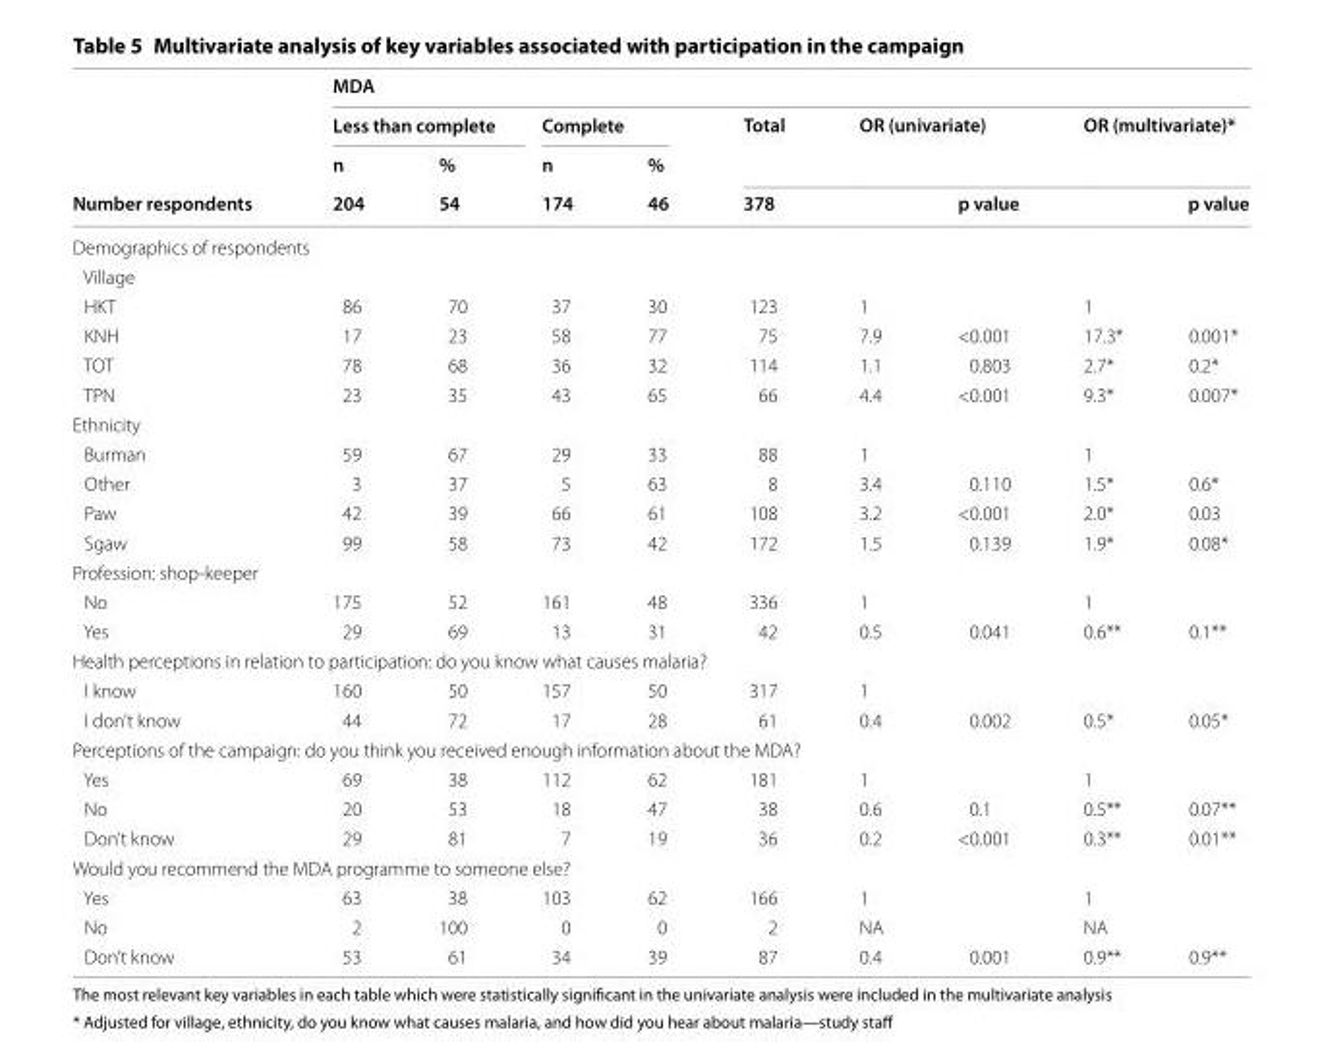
<table><thead><tr><td rowspan="4">Number respondents</td><td colspan="9">MDA</td></tr><tr><td colspan="2">Less than complete</td><td colspan="2">Complete</td><td rowspan="3">Total 378</td><td rowspan="2" colspan="2">OR (univariate)</td><td rowspan="2" colspan="2">OR (multivariate)*</td></tr><tr><td rowspan="2">n 204</td><td rowspan="2">% 54</td><td rowspan="2">n 174</td><td rowspan="2">% 46</td></tr><tr><td></td><td>p value</td><td></td><td>p value</td></tr></thead><tbody><tr><td colspan="10">Demographics of respondents</td></tr><tr><td colspan="10">Village</td></tr><tr><td>HKT</td><td>86</td><td>70</td><td>37</td><td>30</td><td>123</td><td>1</td><td></td><td>1</td><td></td></tr><tr><td>KNH</td><td>17</td><td>23</td><td>58</td><td>77</td><td>75</td><td>7.9</td><td>&lt;0.001</td><td>17.3*</td><td>0.001*</td></tr><tr><td>TOT</td><td>78</td><td>68</td><td>36</td><td>32</td><td>114</td><td>1.1</td><td>0.803</td><td>2.7*</td><td>0.2*</td></tr><tr><td>TPN</td><td>23</td><td>35</td><td>43</td><td>65</td><td>66</td><td>4.4</td><td>&lt;0.001</td><td>9.3*</td><td>0.007*</td></tr><tr><td colspan="10">Ethnicity</td></tr><tr><td>Burman</td><td>59</td><td>67</td><td>29</td><td>33</td><td>88</td><td>1</td><td></td><td>1</td><td></td></tr><tr><td>Other</td><td>3</td><td>37</td><td>5</td><td>63</td><td>8</td><td>3.4</td><td>0.110</td><td>1.5*</td><td>0.6*</td></tr><tr><td>Paw</td><td>42</td><td>39</td><td>66</td><td>61</td><td>108</td><td>3.2</td><td>&lt;0.001</td><td>2.0*</td><td>0.03</td></tr><tr><td>Sgaw</td><td>99</td><td>58</td><td>73</td><td>42</td><td>172</td><td>1.5</td><td>0.139</td><td>1.9*</td><td>0.08*</td></tr><tr><td colspan="10">Profession: shop-keeper</td></tr><tr><td>No</td><td>175</td><td>52</td><td>161</td><td>48</td><td>336</td><td>1</td><td></td><td>1</td><td></td></tr><tr><td>Yes</td><td>29</td><td>69</td><td>13</td><td>31</td><td>42</td><td>0.5</td><td>0.041</td><td>0.6**</td><td>0.1**</td></tr><tr><td colspan="10">Health perceptions in relation to participation: do you know what causes malaria?</td></tr><tr><td>I know</td><td>160</td><td>50</td><td>157</td><td>50</td><td>317</td><td>1</td><td></td><td></td><td></td></tr><tr><td>I don’t know</td><td>44</td><td>72</td><td>17</td><td>28</td><td>61</td><td>0.4</td><td>0.002</td><td>0.5*</td><td>0.05*</td></tr><tr><td colspan="10">Perceptions of the campaign: do you think you received enough information about the MDA?</td></tr><tr><td>Yes</td><td>69</td><td>38</td><td>112</td><td>62</td><td>181</td><td>1</td><td></td><td>1</td><td></td></tr><tr><td>No</td><td>20</td><td>53</td><td>18</td><td>47</td><td>38</td><td>0.6</td><td>0.1</td><td>0.5**</td><td>0.07**</td></tr><tr><td>Don’t know</td><td>29</td><td>81</td><td>7</td><td>19</td><td>36</td><td>0.2</td><td>&lt;0.001</td><td>0.3**</td><td>0.01**</td></tr><tr><td colspan="10">Would you recommend the MDA programme to someone else?</td></tr><tr><td>Yes</td><td>63</td><td>38</td><td>103</td><td>62</td><td>166</td><td>1</td><td></td><td>1</td><td></td></tr><tr><td>No</td><td>2</td><td>100</td><td>0</td><td>0</td><td>2</td><td>NA</td><td></td><td>NA</td><td></td></tr><tr><td>Don’t know</td><td>53</td><td>61</td><td>34</td><td>39</td><td>87</td><td>0.4</td><td>0.001</td><td>0.9**</td><td>0.9**</td></tr></tbody></table>